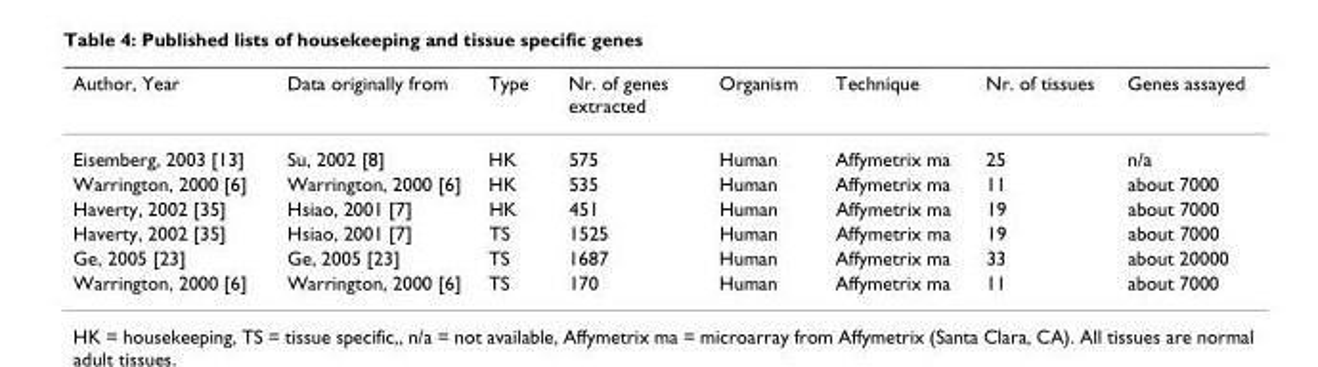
<table><thead><tr><td>Author, Year</td><td>Data originally from</td><td>Type</td><td>Nr. of genes extracted</td><td>Organism</td><td>Technique</td><td>Nr. of tissues</td><td>Genes assayed</td></tr></thead><tbody><tr><td>Eisemberg, 2003 [13]</td><td>Su, 2002 [8]</td><td>HK</td><td>575</td><td>Human</td><td>Affymetrix ma</td><td>25</td><td>n/a</td></tr><tr><td>Warrington, 2000 [6]</td><td>Warrington, 2000 [6]</td><td>HK</td><td>535</td><td>Human</td><td>Affymetrix ma</td><td>11</td><td>about 7000</td></tr><tr><td>Haverty, 2002 [35]</td><td>Hsiao, 2001 [7]</td><td>HK</td><td>451</td><td>Human</td><td>Affymetrix ma</td><td>19</td><td>about 7000</td></tr><tr><td>Haverty, 2002 [35]</td><td>Hsiao, 2001 [7]</td><td>TS</td><td>1525</td><td>Human</td><td>Affymetrix ma</td><td>19</td><td>about 7000</td></tr><tr><td>Ge, 2005 [23]</td><td>Ge, 2005 [23]</td><td>TS</td><td>1687</td><td>Human</td><td>Affymetrix ma</td><td>33</td><td>about 20000</td></tr><tr><td>Warrington, 2000 [6]</td><td>Warrington, 2000 [6]</td><td>TS</td><td>170</td><td>Human</td><td>Affymetrix ma</td><td>11</td><td>about 7000</td></tr></tbody></table>